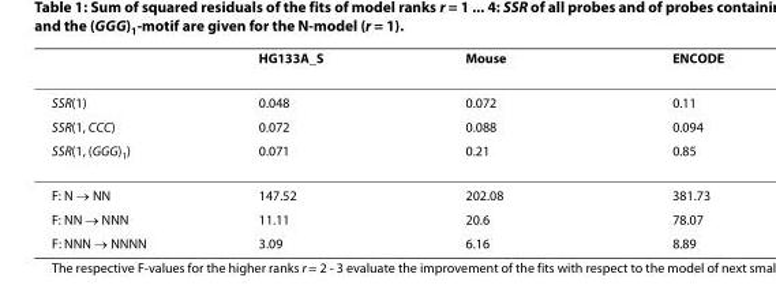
<table><thead><tr><td></td><td>HG133A_S</td><td>Mouse</td><td>ENCODE</td></tr></thead><tbody><tr><td>SSR(1)</td><td>0.048</td><td>0.072</td><td>0.11</td></tr><tr><td>SSR(1, CCC)</td><td>0.072</td><td>0.088</td><td>0.094</td></tr><tr><td>SSR(1, (GGG)<sub>1</sub>)</td><td>0.071</td><td>0.21</td><td>0.85</td></tr><tr><td>F: N → NN</td><td>147.52</td><td>202.08</td><td>381.73</td></tr><tr><td>F: NN → NNN</td><td>11.11</td><td>20.6</td><td>78.07</td></tr><tr><td>F: NNN → NNNN</td><td>3.09</td><td>6.16</td><td>8.89</td></tr></tbody></table>